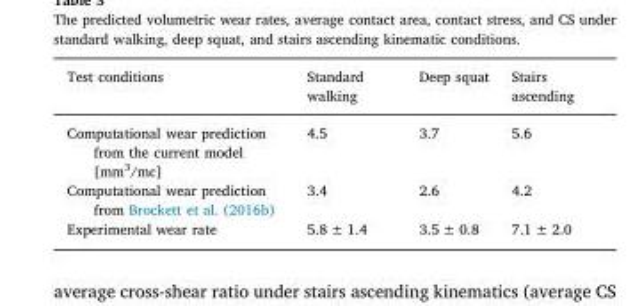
<table><thead><tr><td>Test conditions</td><td>Standard walking</td><td>Deep squat</td><td>Stairs ascending</td></tr></thead><tbody><tr><td>Computational wear prediction from the current model [mm<sup>3</sup>/mc]</td><td>4.5</td><td>3.7</td><td>5.6</td></tr><tr><td>Computational wear prediction from Brockett et al. (2016b)</td><td>3.4</td><td>2.6</td><td>4.2</td></tr><tr><td>Experimental wear rate</td><td>5.8 ± 1.4</td><td>3.5 ± 0.8</td><td>7.1 ± 2.0</td></tr></tbody></table>